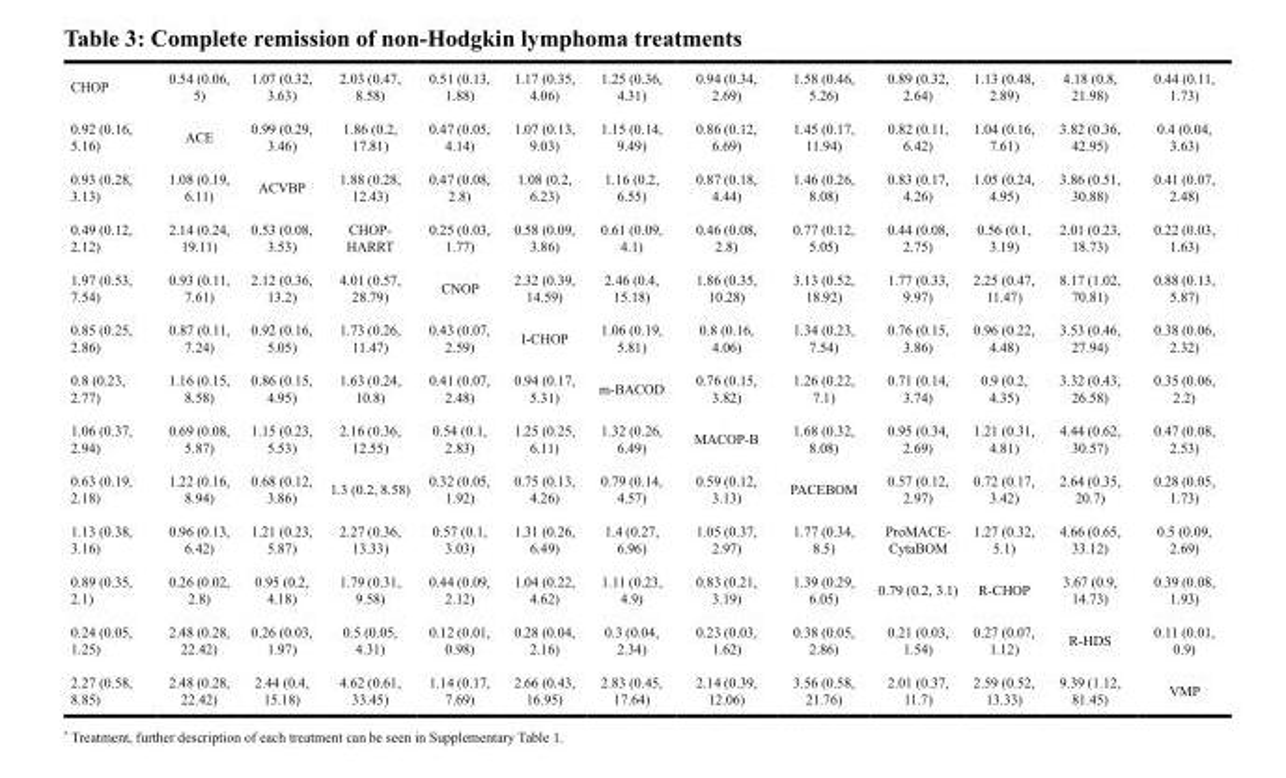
<table><tbody><tr><td>CHOP</td><td>0.54 (0.06, 5)</td><td>1.07 (0.32, 3.63)</td><td>2.03 (0.47, 8.58)</td><td>0.51 (0.13, 1.88)</td><td>1.17 (0.35, 4.06)</td><td>1.25 (0.36, 4.31)</td><td>0.94 (0.34, 2.69)</td><td>1.58 (0.46, 5.26)</td><td>0.89 (0.32, 2.64)</td><td>1.13 (0.48, 2.89)</td><td>4.18 (0.8, 21.98)</td><td>0.44 (0.11, 1.73)</td></tr><tr><td>0.92 (0.16, 5.16)</td><td>ACE</td><td>0.99 (0.29, 3.46)</td><td>1.86 (0.2, 17.81)</td><td>0.47 (0.05, 4.14)</td><td>1.07 (0.13, 9.03)</td><td>1.15 (0.14, 9.49)</td><td>0.86 (0.12, 6.69)</td><td>1.45 (0.17, 11.94)</td><td>0.82 (0.11, 6.42)</td><td>1.04 (0.16, 7.61)</td><td>3.82 (0.36, 42.95)</td><td>0.4 (0.04, 3.63)</td></tr><tr><td>0.93 (0.28, 3.13)</td><td>1.08 (0.19, 6.11)</td><td>ACVBP</td><td>1.88 (0.28, 12.43)</td><td>0.47 (0.08, 2.8)</td><td>1.08 (0.2, 6.23)</td><td>1.16 (0.2, 6.55)</td><td>0.87 (0.18, 4.44)</td><td>1.46 (0.26, 8.08)</td><td>0.83 (0.17, 4.26)</td><td>1.05 (0.24, 4.95)</td><td>3.86 (0.51, 30.88)</td><td>0.41 (0.07, 2.48)</td></tr><tr><td>0.49 (0.12, 2.12)</td><td>2.14 (0.24, 19.11)</td><td>0.53 (0.08, 3.53)</td><td>CHOP- HARRT</td><td>0.25 (0.03, 1.77)</td><td>0.58 (0.09, 3.86)</td><td>0.61 (0.09, 4.1)</td><td>0.46 (0.08, 2.8)</td><td>0.77 (0.12, 5.05)</td><td>0.44 (0.08, 2.75)</td><td>0.56 (0.1, 3.19)</td><td>2.01 (0.23, 18.73)</td><td>0.22 (0.03, 1.63)</td></tr><tr><td>1.97 (0.53, 7.54)</td><td>0.93 (0.11, 7.61)</td><td>2.12 (0.36, 13.2)</td><td>4.01 (0.57, 28.79)</td><td>CNOP</td><td>2.32 (0.39, 14.59)</td><td>2.46 (0.4, 15.18)</td><td>1.86 (0.35, 10.28)</td><td>3.13 (0.52, 18.92)</td><td>1.77 (0.33, 9.97)</td><td>2.25 (0.47, 11.47)</td><td>8.17 (1.02, 70.81)</td><td>0.88 (0.13, 5.87)</td></tr><tr><td>0.85 (0.25, 2.86)</td><td>0.87 (0.11, 7.24)</td><td>0.92 (0.16, 5.05)</td><td>1.73 (0.26, 11.47)</td><td>0.43 (0.07, 2.59)</td><td>I-CHOP</td><td>1.06 (0.19, 5.81)</td><td>0.8 (0.16, 4.06)</td><td>1.34 (0.23, 7.54)</td><td>0.76 (0.15, 3.86)</td><td>0.96 (0.22, 4.48)</td><td>3.53 (0.46, 27.94)</td><td>0.38 (0.06, 2.32)</td></tr><tr><td>0.8 (0.23, 2.77)</td><td>1.16 (0.15, 8.58)</td><td>0.86 (0.15, 4.95)</td><td>1.63 (0.24, 10.8)</td><td>0.41 (0.07, 2.48)</td><td>0.94 (0.17, 5.31)</td><td>m-BACOD</td><td>0.76 (0.15, 3.82)</td><td>1.26 (0.22, 7.1)</td><td>0.71 (0.14, 3.74)</td><td>0.9 (0.2, 4.35)</td><td>3.32 (0.43, 26.58)</td><td>0.35 (0.06, 2.2)</td></tr><tr><td>1.06 (0.37, 2.94)</td><td>0.69 (0.08, 5.87)</td><td>1.15 (0.23, 5.53)</td><td>2.16 (0.36, 12.55)</td><td>0.54 (0.1, 2.83)</td><td>1.25 (0.25, 6.11)</td><td>1.32 (0.26, 6.49)</td><td>MACOP-B</td><td>1.68 (0.32, 8.08)</td><td>0.95 (0.34, 2.69)</td><td>1.21 (0.31, 4.81)</td><td>4.44 (0.62, 30.57)</td><td>0.47 (0.08, 2.53)</td></tr><tr><td>0.63 (0.19, 2.18)</td><td>1.22 (0.16, 8.94)</td><td>0.68 (0.12, 3.86)</td><td>1.3 (0.2, 8.58)</td><td>0.32 (0.05, 1.92)</td><td>0.75 (0.13, 4.26)</td><td>0.79 (0.14, 4.57)</td><td>0.59 (0.12, 3.13)</td><td>PACEBOM</td><td>0.57 (0.12, 2.97)</td><td>0.72 (0.17, 3.42)</td><td>2.64 (0.35, 20.7)</td><td>0.28 (0.05, 1.73)</td></tr><tr><td>1.13 (0.38, 3.16)</td><td>0.96 (0.13, 6.42)</td><td>1.21 (0.23, 5.87)</td><td>2.27 (0.36, 13.33)</td><td>0.57 (0.1, 3.03)</td><td>1.31 (0.26, 6.49)</td><td>1.4 (0.27, 6.96)</td><td>1.05 (0.37, 2.97)</td><td>1.77 (0.34, 8.5)</td><td>ProMACE- CytaBOM</td><td>1.27 (0.32, 5.1)</td><td>4.66 (0.65, 33.12)</td><td>0.5 (0.09, 2.69)</td></tr><tr><td>0.89 (0.35, 2.1)</td><td>0.26 (0.02, 2.8)</td><td>0.95 (0.2, 4.18)</td><td>1.79 (0.31, 9.58)</td><td>0.44 (0.09, 2.12)</td><td>1.04 (0.22, 4.62)</td><td>1.11 (0.23, 4.9)</td><td>0.83 (0.21, 3.19)</td><td>1.39 (0.29, 6.05)</td><td>0.79 (0.2, 3.1)</td><td>R-CHOP</td><td>3.67 (0.9, 14.73)</td><td>0.39 (0.08, 1.93)</td></tr><tr><td>0.24 (0.05, 1.25)</td><td>2.48 (0.28, 22.42)</td><td>0.26 (0.03, 1.97)</td><td>0.5 (0.05, 4.31)</td><td>0.12 (0.01, 0.98)</td><td>0.28 (0.04, 2.16)</td><td>0.3 (0.04, 2.34)</td><td>0.23 (0.03, 1.62)</td><td>0.38 (0.05, 2.86)</td><td>0.21 (0.03, 1.54)</td><td>0.27 (0.07, 1.12)</td><td>R-HDS</td><td>0.11 (0.01, 0.9)</td></tr><tr><td>2.27 (0.58, 8.85)</td><td>2.48 (0.28, 22.42)</td><td>2.44 (0.4, 15.18)</td><td>4.62 (0.61, 33.45)</td><td>1.14 (0.17, 7.69)</td><td>2.66 (0.43, 16.95)</td><td>2.83 (0.45, 17.64)</td><td>2.14 (0.39, 12.06)</td><td>3.56 (0.58, 21.76)</td><td>2.01 (0.37, 11.7)</td><td>2.59 (0.52, 13.33)</td><td>9.39 (1.12, 81.45)</td><td>VMP</td></tr></tbody></table>